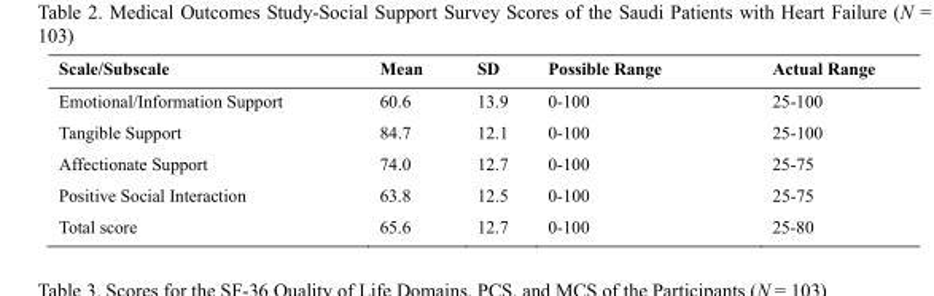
<table><thead><tr><td>Scale/Subscale</td><td>Mean</td><td>SD</td><td>Possible Range</td><td>Actual Range</td></tr></thead><tbody><tr><td>Emotional/Information Support</td><td>60.6</td><td>13.9</td><td>0-100</td><td>25-100</td></tr><tr><td>Tangible Support</td><td>84.7</td><td>12.1</td><td>0-100</td><td>25-100</td></tr><tr><td>Affectionate Support</td><td>74.0</td><td>12.7</td><td>0-100</td><td>25-75</td></tr><tr><td>Positive Social Interaction</td><td>63.8</td><td>12.5</td><td>0-100</td><td>25-75</td></tr><tr><td>Total score</td><td>65.6</td><td>12.7</td><td>0-100</td><td>25-80</td></tr></tbody></table>